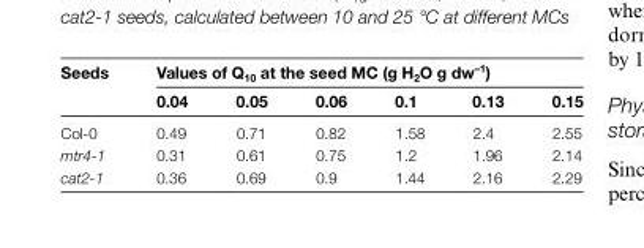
<table><thead><tr><td rowspan="2">Seeds</td><td colspan="6">Values of Q<sub>10</sub> at the seed MC (g H<sub>2</sub>O g dw<sup>–1</sup>)</td></tr><tr><td>0.04</td><td>0.05</td><td>0.06</td><td>0.1</td><td>0.13</td><td>0.15</td></tr></thead><tbody><tr><td>Col-0</td><td>0.49</td><td>0.71</td><td>0.82</td><td>1.58</td><td>2.4</td><td>2.55</td></tr><tr><td>mtr4-1</td><td>0.31</td><td>0.61</td><td>0.75</td><td>1.2</td><td>1.96</td><td>2.14</td></tr><tr><td>cat2-1</td><td>0.36</td><td>0.69</td><td>0.9</td><td>1.44</td><td>2.16</td><td>2.29</td></tr></tbody></table>